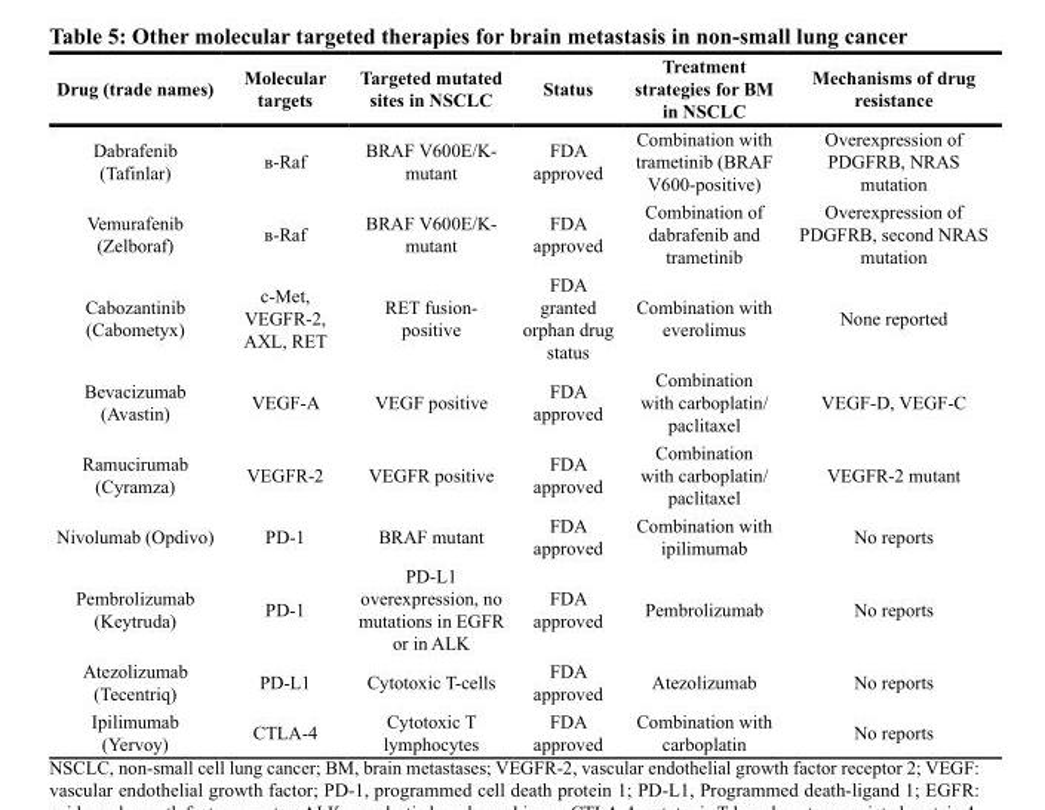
<table><thead><tr><td>Drug (trade names)</td><td>Molecular targets</td><td>Targeted mutated sites in NSCLC</td><td>Status</td><td>Treatment strategies for BM in NSCLC</td><td>Mechanisms of drug resistance</td></tr></thead><tbody><tr><td>Dabrafenib (Tafinlar)</td><td>в-Raf</td><td>BRAF V600E/K- mutant</td><td>FDA approved</td><td>Combination with trametinib (BRAF V600-positive)</td><td>Overexpression of PDGFRB, NRAS mutation</td></tr><tr><td>Vemurafenib (Zelboraf)</td><td>в-Raf</td><td>BRAF V600E/K- mutant</td><td>FDA approved</td><td>Combination of dabrafenib and trametinib</td><td>Overexpression of PDGFRB, second NRAS mutation</td></tr><tr><td>Cabozantinib (Cabometyx)</td><td>c-Met, VEGFR-2, AXL, RET</td><td>RET fusion- positive</td><td>FDA granted orphan drug status</td><td>Combination with everolimus</td><td>None reported</td></tr><tr><td>Bevacizumab (Avastin)</td><td>VEGF-A</td><td>VEGF positive</td><td>FDA approved</td><td>Combination with carboplatin/ paclitaxel</td><td>VEGF-D, VEGF-C</td></tr><tr><td>Ramucirumab (Cyramza)</td><td>VEGFR-2</td><td>VEGFR positive</td><td>FDA approved</td><td>Combination with carboplatin/ paclitaxel</td><td>VEGFR-2 mutant</td></tr><tr><td>Nivolumab (Opdivo)</td><td>PD-1</td><td>BRAF mutant</td><td>FDA approved</td><td>Combination with ipilimumab</td><td>No reports</td></tr><tr><td>Pembrolizumab (Keytruda)</td><td>PD-1</td><td>PD-L1 overexpression, no mutations in EGFR or in ALK</td><td>FDA approved</td><td>Pembrolizumab</td><td>No reports</td></tr><tr><td>Atezolizumab (Tecentriq)</td><td>PD-L1</td><td>Cytotoxic T-cells</td><td>FDA approved</td><td>Atezolizumab</td><td>No reports</td></tr><tr><td>Ipilimumab (Yervoy)</td><td>CTLA-4</td><td>Cytotoxic T lymphocytes</td><td>FDA approved</td><td>Combination with carboplatin</td><td>No reports</td></tr></tbody></table>